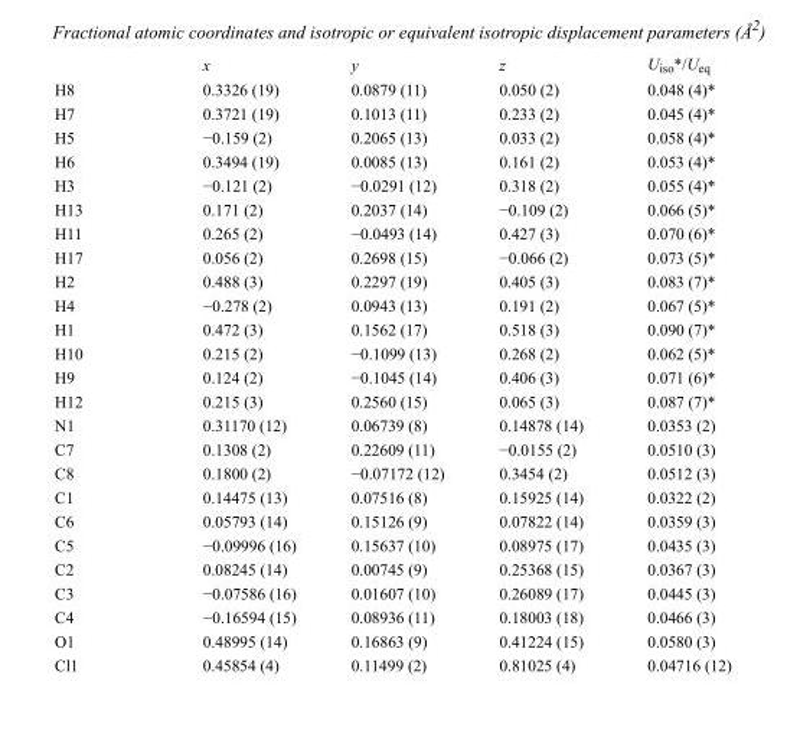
<table><thead><tr><td></td><td>x</td><td>y</td><td>z</td><td>U<sub>iso</sub>*/U<sub>eq</sub></td></tr></thead><tbody><tr><td>H8</td><td>0.3326 (19)</td><td>0.0879 (11)</td><td>0.050 (2)</td><td>0.048 (4)*</td></tr><tr><td>H7</td><td>0.3721 (19)</td><td>0.1013 (11)</td><td>0.233 (2)</td><td>0.045 (4)*</td></tr><tr><td>H5</td><td>−0.159 (2)</td><td>0.2065 (13)</td><td>0.033 (2)</td><td>0.058 (4)*</td></tr><tr><td>H6</td><td>0.3494 (19)</td><td>0.0085 (13)</td><td>0.161 (2)</td><td>0.053 (4)*</td></tr><tr><td>H3</td><td>−0.121 (2)</td><td>−0.0291 (12)</td><td>0.318 (2)</td><td>0.055 (4)*</td></tr><tr><td>H13</td><td>0.171 (2)</td><td>0.2037 (14)</td><td>−0.109 (2)</td><td>0.066 (5)*</td></tr><tr><td>H11</td><td>0.265 (2)</td><td>−0.0493 (14)</td><td>0.427 (3)</td><td>0.070 (6)*</td></tr><tr><td>H17</td><td>0.056 (2)</td><td>0.2698 (15)</td><td>−0.066 (2)</td><td>0.073 (5)*</td></tr><tr><td>H2</td><td>0.488 (3)</td><td>0.2297 (19)</td><td>0.405 (3)</td><td>0.083 (7)*</td></tr><tr><td>H4</td><td>−0.278 (2)</td><td>0.0943 (13)</td><td>0.191 (2)</td><td>0.067 (5)*</td></tr><tr><td>H1</td><td>0.472 (3)</td><td>0.1562 (17)</td><td>0.518 (3)</td><td>0.090 (7)*</td></tr><tr><td>H10</td><td>0.215 (2)</td><td>−0.1099 (13)</td><td>0.268 (2)</td><td>0.062 (5)*</td></tr><tr><td>H9</td><td>0.124 (2)</td><td>−0.1045 (14)</td><td>0.406 (3)</td><td>0.071 (6)*</td></tr><tr><td>H12</td><td>0.215 (3)</td><td>0.2560 (15)</td><td>0.065 (3)</td><td>0.087 (7)*</td></tr><tr><td>N1</td><td>0.31170 (12)</td><td>0.06739 (8)</td><td>0.14878 (14)</td><td>0.0353 (2)</td></tr><tr><td>C7</td><td>0.1308 (2)</td><td>0.22609 (11)</td><td>−0.0155 (2)</td><td>0.0510 (3)</td></tr><tr><td>C8</td><td>0.1800 (2)</td><td>−0.07172 (12)</td><td>0.3454 (2)</td><td>0.0512 (3)</td></tr><tr><td>C1</td><td>0.14475 (13)</td><td>0.07516 (8)</td><td>0.15925 (14)</td><td>0.0322 (2)</td></tr><tr><td>C6</td><td>0.05793 (14)</td><td>0.15126 (9)</td><td>0.07822 (14)</td><td>0.0359 (3)</td></tr><tr><td>C5</td><td>−0.09996 (16)</td><td>0.15637 (10)</td><td>0.08975 (17)</td><td>0.0435 (3)</td></tr><tr><td>C2</td><td>0.08245 (14)</td><td>0.00745 (9)</td><td>0.25368 (15)</td><td>0.0367 (3)</td></tr><tr><td>C3</td><td>−0.07586 (16)</td><td>0.01607 (10)</td><td>0.26089 (17)</td><td>0.0445 (3)</td></tr><tr><td>C4</td><td>−0.16594 (15)</td><td>0.08936 (11)</td><td>0.18003 (18)</td><td>0.0466 (3)</td></tr><tr><td>O1</td><td>0.48995 (14)</td><td>0.16863 (9)</td><td>0.41224 (15)</td><td>0.0580 (3)</td></tr><tr><td>Cl1</td><td>0.45854 (4)</td><td>0.11499 (2)</td><td>0.81025 (4)</td><td>0.04716 (12)</td></tr></tbody></table>